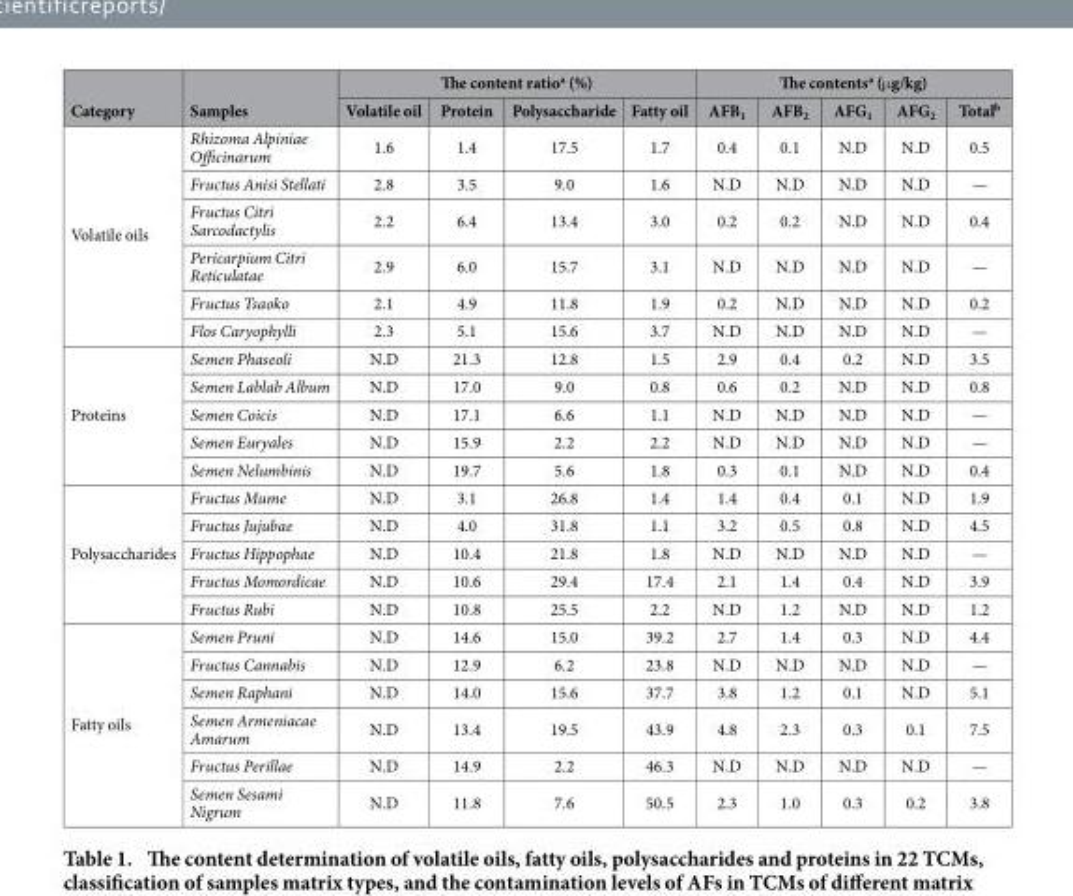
<table><thead><tr><td rowspan="2">Category</td><td rowspan="2">Samples</td><td colspan="4">The content ratio<sup>a</sup> (%)</td><td colspan="5">The contents<sup>a</sup> (μ g/kg)</td></tr><tr><td>Volatile oil</td><td>Protein</td><td>Polysaccharide</td><td>Fatty oil</td><td>AFB<sub>1</sub></td><td>AFB<sub>2</sub></td><td>AFG<sub>1</sub></td><td>AFG<sub>2</sub></td><td>Total<sup>b</sup></td></tr></thead><tbody><tr><td rowspan="6">Volatile oils</td><td>Rhizoma Alpiniae Officinarum</td><td>1.6</td><td>1.4</td><td>17.5</td><td>1.7</td><td>0.4</td><td>0.1</td><td>N.D</td><td>N.D</td><td>0.5</td></tr><tr><td>Fructus Anisi Stellati</td><td>2.8</td><td>3.5</td><td>9.0</td><td>1.6</td><td>N.D</td><td>N.D</td><td>N.D</td><td>N.D</td><td>—</td></tr><tr><td>Fructus Citri Sarcodactylis</td><td>2.2</td><td>6.4</td><td>13.4</td><td>3.0</td><td>0.2</td><td>0.2</td><td>N.D</td><td>N.D</td><td>0.4</td></tr><tr><td>Pericarpium Citri Reticulatae</td><td>2.9</td><td>6.0</td><td>15.7</td><td>3.1</td><td>N.D</td><td>N.D</td><td>N.D</td><td>N.D</td><td>—</td></tr><tr><td>Fructus Tsaoko</td><td>2.1</td><td>4.9</td><td>11.8</td><td>1.9</td><td>0.2</td><td>N.D</td><td>N.D</td><td>N.D</td><td>0.2</td></tr><tr><td>Flos Caryophylli</td><td>2.3</td><td>5.1</td><td>15.6</td><td>3.7</td><td>N.D</td><td>N.D</td><td>N.D</td><td>N.D</td><td>—</td></tr><tr><td rowspan="5">Proteins</td><td>Semen Phaseoli</td><td>N.D</td><td>21.3</td><td>12.8</td><td>1.5</td><td>2.9</td><td>0.4</td><td>0.2</td><td>N.D</td><td>3.5</td></tr><tr><td>Semen Lablab Album</td><td>N.D</td><td>17.0</td><td>9.0</td><td>0.8</td><td>0.6</td><td>0.2</td><td>N.D</td><td>N.D</td><td>0.8</td></tr><tr><td>Semen Coicis</td><td>N.D</td><td>17.1</td><td>6.6</td><td>1.1</td><td>N.D</td><td>N.D</td><td>N.D</td><td>N.D</td><td>—</td></tr><tr><td>Semen Euryales</td><td>N.D</td><td>15.9</td><td>2.2</td><td>2.2</td><td>N.D</td><td>N.D</td><td>N.D</td><td>N.D</td><td>—</td></tr><tr><td>Semen Nelumbinis</td><td>N.D</td><td>19.7</td><td>5.6</td><td>1.8</td><td>0.3</td><td>0.1</td><td>N.D</td><td>N.D</td><td>0.4</td></tr><tr><td rowspan="5">Polysaccharides</td><td>Fructus Mume</td><td>N.D</td><td>3.1</td><td>26.8</td><td>1.4</td><td>1.4</td><td>0.4</td><td>0.1</td><td>N.D</td><td>1.9</td></tr><tr><td>Fructus Jujubae</td><td>N.D</td><td>4.0</td><td>31.8</td><td>1.1</td><td>3.2</td><td>0.5</td><td>0.8</td><td>N.D</td><td>4.5</td></tr><tr><td>Fructus Hippophae</td><td>N.D</td><td>10.4</td><td>21.8</td><td>1.8</td><td>N.D</td><td>N.D</td><td>N.D</td><td>N.D</td><td>—</td></tr><tr><td>Fructus Momordicae</td><td>N.D</td><td>10.6</td><td>29.4</td><td>17.4</td><td>2.1</td><td>1.4</td><td>0.4</td><td>N.D</td><td>3.9</td></tr><tr><td>Fructus Rubi</td><td>N.D</td><td>10.8</td><td>25.5</td><td>2.2</td><td>N.D</td><td>1.2</td><td>N.D</td><td>N.D</td><td>1.2</td></tr><tr><td rowspan="6">Fatty oils</td><td>Semen Pruni</td><td>N.D</td><td>14.6</td><td>15.0</td><td>39.2</td><td>2.7</td><td>1.4</td><td>0.3</td><td>N.D</td><td>4.4</td></tr><tr><td>Fructus Cannabis</td><td>N.D</td><td>12.9</td><td>6.2</td><td>23.8</td><td>N.D</td><td>N.D</td><td>N.D</td><td>N.D</td><td>—</td></tr><tr><td>Semen Raphani</td><td>N.D</td><td>14.0</td><td>15.6</td><td>37.7</td><td>3.8</td><td>1.2</td><td>0.1</td><td>N.D</td><td>5.1</td></tr><tr><td>Semen Armeniacae Amarum</td><td>N.D</td><td>13.4</td><td>19.5</td><td>43.9</td><td>4.8</td><td>2.3</td><td>0.3</td><td>0.1</td><td>7.5</td></tr><tr><td>Fructus Perillae</td><td>N.D</td><td>14.9</td><td>2.2</td><td>46.3</td><td>N.D</td><td>N.D</td><td>N.D</td><td>N.D</td><td>—</td></tr><tr><td>Semen Sesami Nigrum</td><td>N.D</td><td>11.8</td><td>7.6</td><td>50.5</td><td>2.3</td><td>1.0</td><td>0.3</td><td>0.2</td><td>3.8</td></tr></tbody></table>